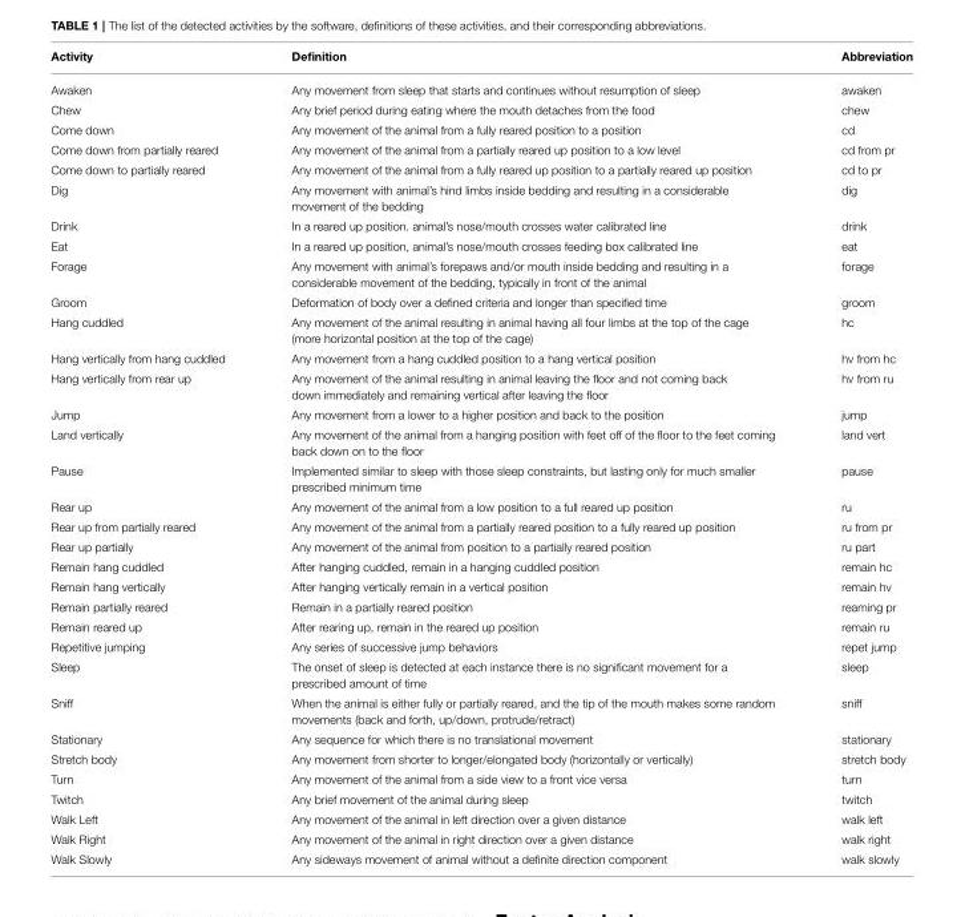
<table><thead><tr><td>Activity</td><td>Definition</td><td>Abbreviation</td></tr></thead><tbody><tr><td>Awaken</td><td>Any movement from sleep that starts and continues without resumption of sleep</td><td>awaken</td></tr><tr><td>Chew</td><td>Any brief period during eating where the mouth detaches from the food</td><td>chew</td></tr><tr><td>Come down</td><td>Any movement of the animal from a fully reared position to a position</td><td>cd</td></tr><tr><td>Come down from partially reared</td><td>Any movement of the animal from a partially reared up position to a low level</td><td>cd from pr</td></tr><tr><td>Come down to partially reared</td><td>Any movement of the animal from a fully reared up position to a partially reared up position</td><td>cd to pr</td></tr><tr><td>Dig</td><td>Any movement with animal’s hind limbs inside bedding and resulting in a considerable movement of the bedding</td><td>dig</td></tr><tr><td>Drink</td><td>In a reared up position. animal’s nose/mouth crosses water calibrated line</td><td>drink</td></tr><tr><td>Eat</td><td>In a reared up position, animal’s nose/mouth crosses feeding box calibrated line</td><td>eat</td></tr><tr><td>Forage</td><td>Any movement with animal’s forepaws and/or mouth inside bedding and resulting in a considerable movement of the bedding, typically in front of the animal</td><td>forage</td></tr><tr><td>Groom</td><td>Deformation of body over a defined criteria and longer than specified time</td><td>groom</td></tr><tr><td>Hang cuddled</td><td>Any movement of the animal resulting in animal having all four limbs at the top of the cage (more horizontal position at the top of the cage)</td><td>hc</td></tr><tr><td>Hang vertically from hang cuddled</td><td>Any movement from a hang cuddled position to a hang vertical position</td><td>hv from hc</td></tr><tr><td>Hang vertically from rear up</td><td>Any movement of the animal resulting in animal leaving the floor and not coming back down immediately and remaining vertical after leaving the floor</td><td>hv from ru</td></tr><tr><td>Jump</td><td>Any movement from a lower to a higher position and back to the position</td><td>jump</td></tr><tr><td>Land vertically</td><td>Any movement of the animal from a hanging position with feet off of the floor to the feet coming back down on to the floor</td><td>land vert</td></tr><tr><td>Pause</td><td>Implemented similar to sleep with those sleep constraints, but lasting only for much smaller prescribed minimum time</td><td>pause</td></tr><tr><td>Rear up</td><td>Any movement of the animal from a low position to a full reared up position</td><td>ru</td></tr><tr><td>Rear up from partially reared</td><td>Any movement of the animal from a partially reared position to a fully reared up position</td><td>ru from pr</td></tr><tr><td>Rear up partially</td><td>Any movement of the animal from position to a partially reared position</td><td>ru part</td></tr><tr><td>Remain hang cuddled</td><td>After hanging cuddled, remain in a hanging cuddled position</td><td>remain hc</td></tr><tr><td>Remain hang vertically</td><td>After hanging vertically remain in a vertical position</td><td>remain hv</td></tr><tr><td>Remain partially reared</td><td>Remain in a partially reared position</td><td>reaming pr</td></tr><tr><td>Remain reared up</td><td>After rearing up, remain in the reared up position</td><td>remain ru</td></tr><tr><td>Repetitive jumping</td><td>Any series of successive jump behaviors</td><td>repet jump</td></tr><tr><td>Sleep</td><td>The onset of sleep is detected at each instance there is no significant movement for a prescribed amount of time</td><td>sleep</td></tr><tr><td>Sniff</td><td>When the animal is either fully or partially reared, and the tip of the mouth makes some random movements (back and forth, up/down, protrude/retract)</td><td>sniff</td></tr><tr><td>Stationary</td><td>Any sequence for which there is no translational movement</td><td>stationary</td></tr><tr><td>Stretch body</td><td>Any movement from shorter to longer/elongated body (horizontally or vertically)</td><td>stretch body</td></tr><tr><td>Turn</td><td>Any movement of the animal from a side view to a front vice versa</td><td>turn</td></tr><tr><td>Twitch</td><td>Any brief movement of the animal during sleep</td><td>twitch</td></tr><tr><td>Walk Left</td><td>Any movement of the animal in left direction over a given distance</td><td>walk left</td></tr><tr><td>Walk Right</td><td>Any movement of the animal in right direction over a given distance</td><td>walk right</td></tr><tr><td>Walk Slowly</td><td>Any sideways movement of animal without a definite direction component</td><td>walk slowly</td></tr></tbody></table>